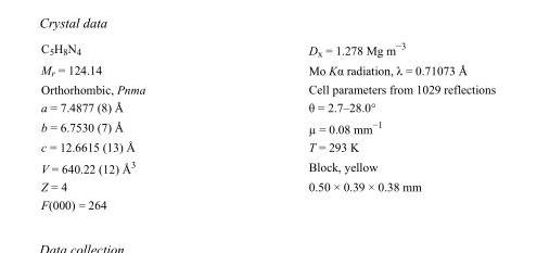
<table><tbody><tr><td>C<sub>5</sub>H<sub>8</sub>N<sub>4</sub></td><td>D<sub>x</sub> = 1.278 Mg m<sup>−3</sup></td></tr><tr><td>M<sub>r</sub> = 124.14</td><td>Mo Kα radiation, λ = 0.71073 Å</td></tr><tr><td>Orthorhombic, Pnma</td><td>Cell parameters from 1029 reflections</td></tr><tr><td>a = 7.4877 (8) Å</td><td>θ = 2.7–28.0°</td></tr><tr><td>b = 6.7530 (7) Å</td><td>µ = 0.08 mm<sup>−1</sup></td></tr><tr><td>c = 12.6615 (13) Å</td><td>T = 293 K</td></tr><tr><td>V = 640.22 (12) Å<sup>3</sup></td><td>Block, yellow</td></tr><tr><td>Z = 4</td><td>0.50 × 0.39 × 0.38 mm</td></tr><tr><td>F(000) = 264</td><td></td></tr></tbody></table>